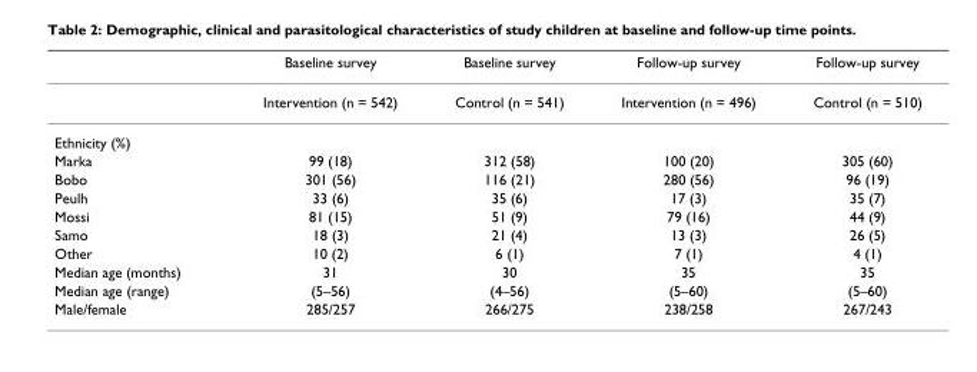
<table><thead><tr><td></td><td>Baseline survey</td><td>Baseline survey</td><td>Follow-up survey</td><td>Follow-up survey</td></tr></thead><tbody><tr><td></td><td>Intervention (n = 542)</td><td>Control (n = 541)</td><td>Intervention (n = 496)</td><td>Control (n = 510)</td></tr><tr><td colspan="5">Ethnicity (%)</td></tr><tr><td>Marka</td><td>99 (18)</td><td>312 (58)</td><td>100 (20)</td><td>305 (60)</td></tr><tr><td>Bobo</td><td>301 (56)</td><td>116 (21)</td><td>280 (56)</td><td>96 (19)</td></tr><tr><td>Peulh</td><td>33 (6)</td><td>35 (6)</td><td>17 (3)</td><td>35 (7)</td></tr><tr><td>Mossi</td><td>81 (15)</td><td>51 (9)</td><td>79 (16)</td><td>44 (9)</td></tr><tr><td>Samo</td><td>18 (3)</td><td>21 (4)</td><td>13 (3)</td><td>26 (5)</td></tr><tr><td>Other</td><td>10 (2)</td><td>6 (1)</td><td>7 (1)</td><td>4 (1)</td></tr><tr><td>Median age (months)</td><td>31</td><td>30</td><td>35</td><td>35</td></tr><tr><td>Median age (range)</td><td>(5–56)</td><td>(4–56)</td><td>(5–60)</td><td>(5–60)</td></tr><tr><td>Male/female</td><td>285/257</td><td>266/275</td><td>238/258</td><td>267/243</td></tr></tbody></table>